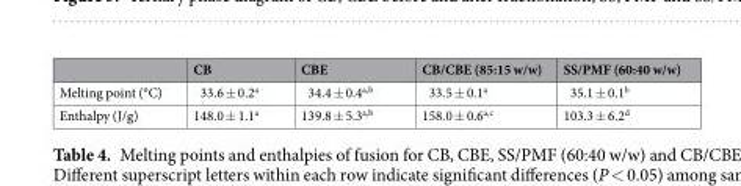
<table><thead><tr><td></td><td>CB</td><td>CBE</td><td>CB/CBE (85:15 w/w)</td><td>SS/PMF (60:40 w/w)</td></tr></thead><tbody><tr><td>Melting point (°C)</td><td>33.6 ± 0.2<sup>a</sup></td><td>34.4 ± 0.4<sup>a,b</sup></td><td>33.5 ± 0.1<sup>a</sup></td><td>35.1 ± 0.1<sup>b</sup></td></tr><tr><td>Enthalpy (J/g)</td><td>148.0 ± 1.1<sup>a</sup></td><td>139.8 ± 5.3<sup>a,b</sup></td><td>158.0 ± 0.6<sup>a,c</sup></td><td>103.3 ± 6.2<sup>d</sup></td></tr></tbody></table>